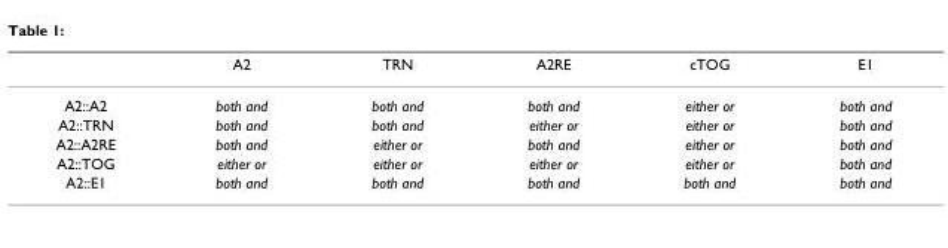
<table><thead><tr><td></td><td>A2</td><td>TRN</td><td>A2RE</td><td>cTOG</td><td>E1</td></tr></thead><tbody><tr><td>A2::A2</td><td>both and</td><td>both and</td><td>both and</td><td>either or</td><td>both and</td></tr><tr><td>A2::TRN</td><td>both and</td><td>both and</td><td>either or</td><td>either or</td><td>both and</td></tr><tr><td>A2::A2RE</td><td>both and</td><td>either or</td><td>both and</td><td>either or</td><td>both and</td></tr><tr><td>A2::TOG</td><td>either or</td><td>either or</td><td>either or</td><td>either or</td><td>both and</td></tr><tr><td>A2::E1</td><td>both and</td><td>both and</td><td>both and</td><td>both and</td><td>both and</td></tr></tbody></table>